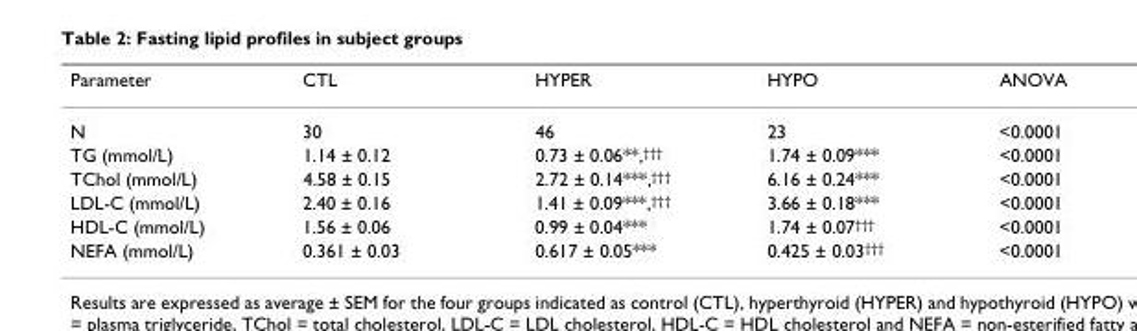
<table><thead><tr><td>Parameter</td><td>CTL</td><td>HYPER</td><td>HYPO</td><td>ANOVA</td></tr></thead><tbody><tr><td>N</td><td>30</td><td>46</td><td>23</td><td>&lt;0.0001</td></tr><tr><td>TG (mmol/L)</td><td>1.14 ± 0.12</td><td>0.73 ± 0.06**,<sup>†††</sup></td><td>1.74 ± 0.09***</td><td>&lt;0.0001</td></tr><tr><td>TChol (mmol/L)</td><td>4.58 ± 0.15</td><td>2.72 ± 0.14***,<sup>†††</sup></td><td>6.16 ± 0.24***</td><td>&lt;0.0001</td></tr><tr><td>LDL-C (mmol/L)</td><td>2.40 ± 0.16</td><td>1.41 ± 0.09***,<sup>†††</sup></td><td>3.66 ± 0.18***</td><td>&lt;0.0001</td></tr><tr><td>HDL-C (mmol/L)</td><td>1.56 ± 0.06</td><td>0.99 ± 0.04***</td><td>1.74 ± 0.07<sup>†††</sup></td><td>&lt;0.0001</td></tr><tr><td>NEFA (mmol/L)</td><td>0.361 ± 0.03</td><td>0.617 ± 0.05***</td><td>0.425 ± 0.03<sup>†††</sup></td><td>&lt;0.0001</td></tr></tbody></table>